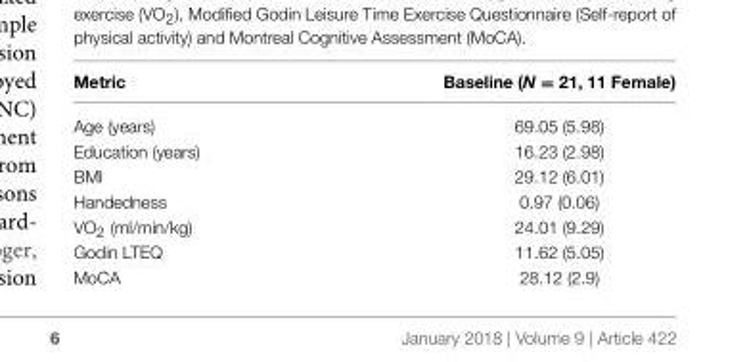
<table><thead><tr><td>Metric</td><td>Baseline (N = 21, 11 Female)</td></tr></thead><tbody><tr><td>Age (years)</td><td>69.05 (5.98)</td></tr><tr><td>Education (years)</td><td>16.23 (2.98)</td></tr><tr><td>BMI</td><td>29.12 (6.01)</td></tr><tr><td>Handedness</td><td>0.97 (0.06)</td></tr><tr><td>VO<sub>2</sub> (ml/min/kg)</td><td>24.01 (9.29)</td></tr><tr><td>Godin LTEQ</td><td>11.62 (5.05)</td></tr><tr><td>MoCA</td><td>28.12 (2.9)</td></tr></tbody></table>